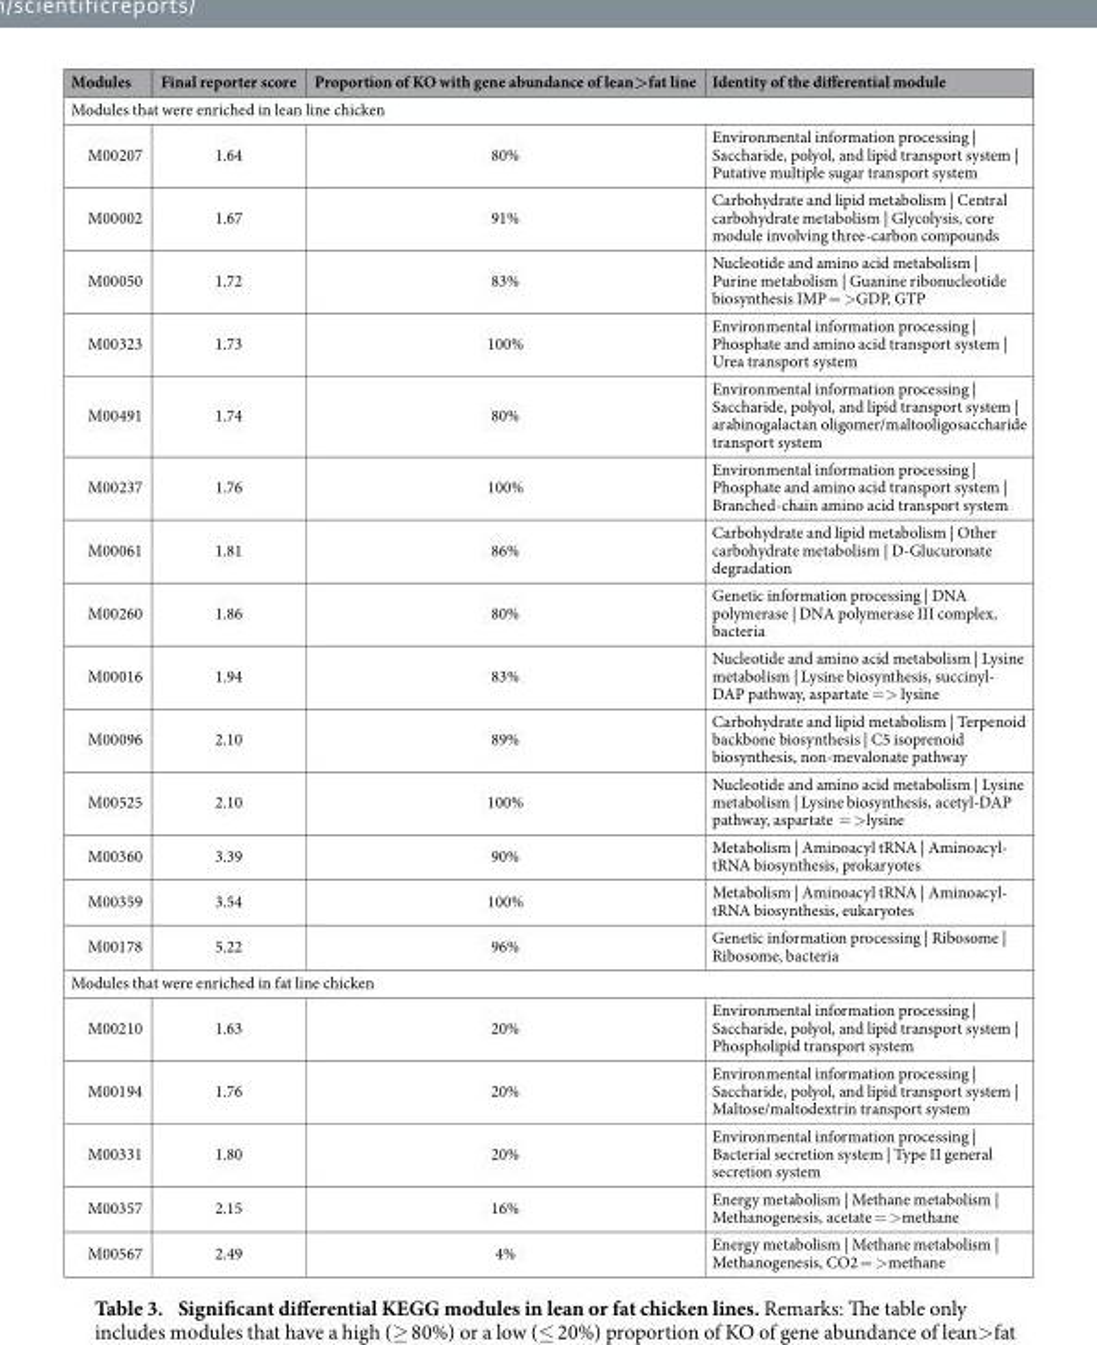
<table><thead><tr><td>Modules</td><td>Final reporter score</td><td>Proportion of KO with gene abundance of lean&gt;fat line</td><td>Identity of the differential module</td></tr></thead><tbody><tr><td colspan="4">Modules that were enriched in lean line chicken</td></tr><tr><td>M00207</td><td>1.64</td><td>80%</td><td>Environmental information processing | Saccharide, polyol, and lipid transport system | Putative multiple sugar transport system</td></tr><tr><td>M00002</td><td>1.67</td><td>91%</td><td>Carbohydrate and lipid metabolism | Central carbohydrate metabolism | Glycolysis, core module involving three-carbon compounds</td></tr><tr><td>M00050</td><td>1.72</td><td>83%</td><td>Nucleotide and amino acid metabolism | Purine metabolism | Guanine ribonucleotide biosynthesis IMP = &gt; GDP, GTP</td></tr><tr><td>M00323</td><td>1.73</td><td>100%</td><td>Environmental information processing | Phosphate and amino acid transport system | Urea transport system</td></tr><tr><td>M00491</td><td>1.74</td><td>80%</td><td>Environmental information processing | Saccharide, polyol, and lipid transport system | arabinogalactan oligomer/maltooligosaccharide transport system</td></tr><tr><td>M00237</td><td>1.76</td><td>100%</td><td>Environmental information processing | Phosphate and amino acid transport system | Branched-chain amino acid transport system</td></tr><tr><td>M00061</td><td>1.81</td><td>86%</td><td>Carbohydrate and lipid metabolism | Other carbohydrate metabolism | D-Glucuronate degradation</td></tr><tr><td>M00260</td><td>1.86</td><td>80%</td><td>Genetic information processing | DNA polymerase | DNA polymerase III complex, bacteria</td></tr><tr><td>M00016</td><td>1.94</td><td>83%</td><td>Nucleotide and amino acid metabolism | Lysine metabolism | Lysine biosynthesis, succinyl- DAP pathway, aspartate = &gt; lysine</td></tr><tr><td>M00096</td><td>2.10</td><td>89%</td><td>Carbohydrate and lipid metabolism | Terpenoid backbone biosynthesis | C5 isoprenoid biosynthesis, non-mevalonate pathway</td></tr><tr><td>M00525</td><td>2.10</td><td>100%</td><td>Nucleotide and amino acid metabolism | Lysine metabolism | Lysine biosynthesis, acetyl-DAP pathway, aspartate = &gt; lysine</td></tr><tr><td>M00360</td><td>3.39</td><td>90%</td><td>Metabolism | Aminoacyl tRNA | Aminoacyl- tRNA biosynthesis, prokaryotes</td></tr><tr><td>M00359</td><td>3.54</td><td>100%</td><td>Metabolism | Aminoacyl tRNA | Aminoacyl- tRNA biosynthesis, eukaryotes</td></tr><tr><td>M00178</td><td>5.22</td><td>96%</td><td>Genetic information processing | Ribosome | Ribosome, bacteria</td></tr><tr><td colspan="4">Modules that were enriched in fat line chicken</td></tr><tr><td>M00210</td><td>1.63</td><td>20%</td><td>Environmental information processing | Saccharide, polyol, and lipid transport system | Phospholipid transport system</td></tr><tr><td>M00194</td><td>1.76</td><td>20%</td><td>Environmental information processing | Saccharide, polyol, and lipid transport system | Maltose/maltodextrin transport system</td></tr><tr><td>M00331</td><td>1.80</td><td>20%</td><td>Environmental information processing | Bacterial secretion system | Type II general secretion system</td></tr><tr><td>M00357</td><td>2.15</td><td>16%</td><td>Energy metabolism | Methane metabolism | Methanogenesis, acetate = &gt; methane</td></tr><tr><td>M00567</td><td>2.49</td><td>4%</td><td>Energy metabolism | Methane metabolism | Methanogenesis, CO2 = &gt; methane</td></tr></tbody></table>